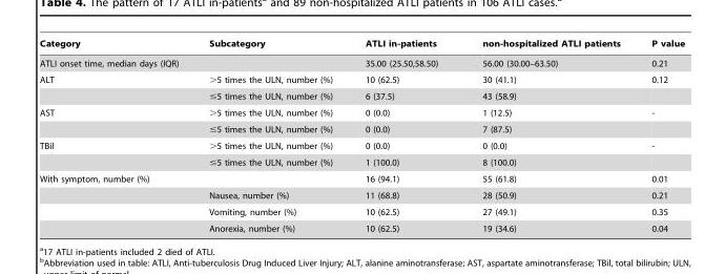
<table><thead><tr><td>Category</td><td>Subcategory</td><td>ATLI in-patients</td><td>non-hospitalized ATLI patients</td><td>P value</td></tr></thead><tbody><tr><td>ATLI onset time, median days (IQR)</td><td></td><td>35.00 (25.50,58.50)</td><td>56.00 (30.00–63.50)</td><td>0.21</td></tr><tr><td rowspan="2">ALT</td><td>&gt;5 times the ULN, number (%)</td><td>10 (62.5)</td><td>30 (41.1)</td><td>0.12</td></tr><tr><td>≤5 times the ULN, number (%)</td><td>6 (37.5)</td><td>43 (58.9)</td><td></td></tr><tr><td rowspan="2">AST</td><td>&gt;5 times the ULN, number (%)</td><td>0 (0.0)</td><td>1 (12.5)</td><td>-</td></tr><tr><td>≤5 times the ULN, number (%)</td><td>0 (0.0)</td><td>7 (87.5)</td><td></td></tr><tr><td rowspan="2">TBil</td><td>&gt;5 times the ULN, number (%)</td><td>0 (0.0)</td><td>0 (0.0)</td><td>-</td></tr><tr><td>≤5 times the ULN, number (%)</td><td>1 (100.0)</td><td>8 (100.0)</td><td></td></tr><tr><td rowspan="4">With symptom, number (%)</td><td></td><td>16 (94.1)</td><td>55 (61.8)</td><td>0.01</td></tr><tr><td>Nausea, number (%)</td><td>11 (68.8)</td><td>28 (50.9)</td><td>0.21</td></tr><tr><td>Vomiting, number (%)</td><td>10 (62.5)</td><td>27 (49.1)</td><td>0.35</td></tr><tr><td>Anorexia, number (%)</td><td>10 (62.5)</td><td>19 (34.6)</td><td>0.04</td></tr></tbody></table>